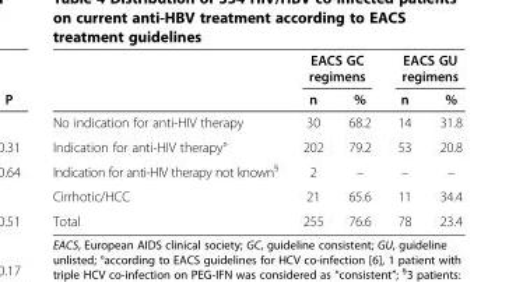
<table><thead><tr><td rowspan="2"></td><td colspan="2">EACS GC regimens</td><td colspan="2">EACS GU regimens</td></tr><tr><td>n</td><td>%</td><td>n</td><td>%</td></tr></thead><tbody><tr><td>No indication for anti-HIV therapy</td><td>30</td><td>68.2</td><td>14</td><td>31.8</td></tr><tr><td>Indication for anti-HIV therapy°</td><td>202</td><td>79.2</td><td>53</td><td>20.8</td></tr><tr><td>Indication for anti-HIV therapy not known<sup>§</sup></td><td>2</td><td>–</td><td>–</td><td>–</td></tr><tr><td>Cirrhotic/HCC</td><td>21</td><td>65.6</td><td>11</td><td>34.4</td></tr><tr><td>Total</td><td>255</td><td>76.6</td><td>78</td><td>23.4</td></tr></tbody></table>